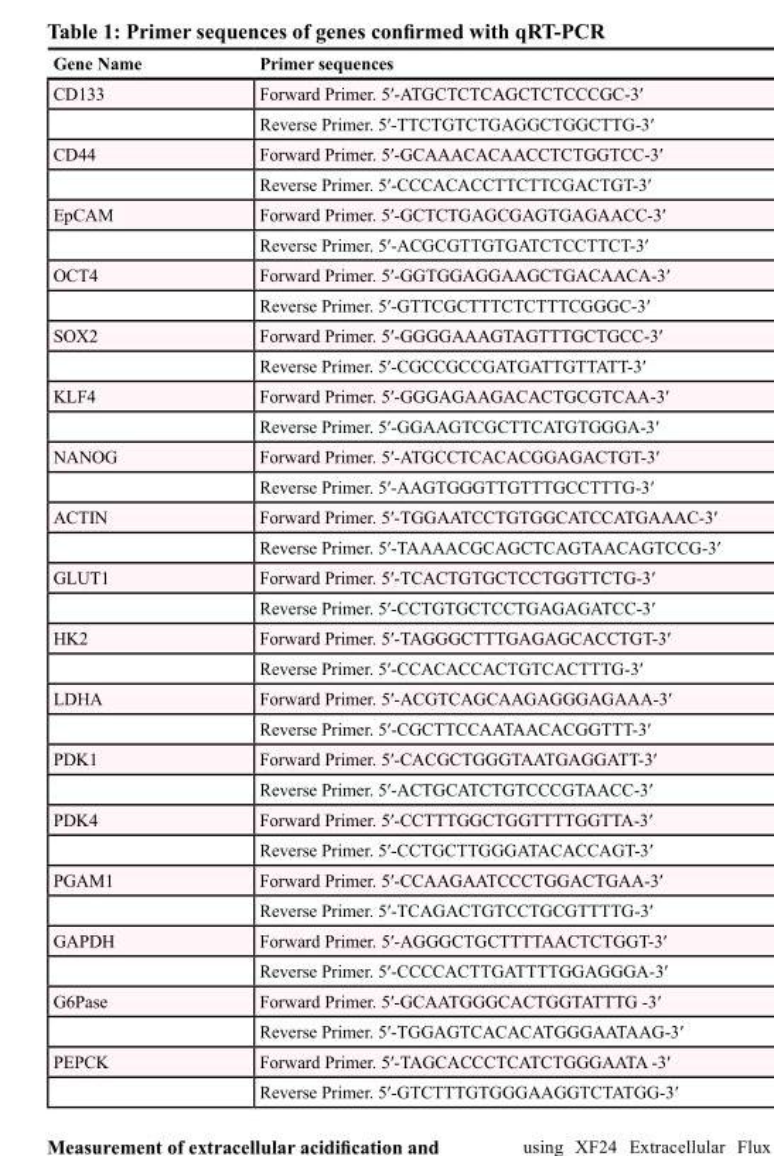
<table><thead><tr><td>Gene Name</td><td>Primer sequences</td></tr></thead><tbody><tr><td rowspan="2">CD133</td><td>Forward Primer. 5′-ATGCTCTCAGCTCTCCCGC-3′</td></tr><tr><td>Reverse Primer. 5′-TTCTGTCTGAGGCTGGCTTG-3′</td></tr><tr><td rowspan="2">CD44</td><td>Forward Primer. 5′-GCAAACACAACCTCTGGTCC-3′</td></tr><tr><td>Reverse Primer. 5′-CCCACACCTTCTTCGACTGT-3′</td></tr><tr><td rowspan="2">EpCAM</td><td>Forward Primer. 5′-GCTCTGAGCGAGTGAGAACC-3′</td></tr><tr><td>Reverse Primer. 5′-ACGCGTTGTGATCTCCTTCT-3′</td></tr><tr><td rowspan="2">OCT4</td><td>Forward Primer. 5′-GGTGGAGGAAGCTGACAACA-3′</td></tr><tr><td>Reverse Primer. 5′-GTTCGCTTTCTCTTTCGGGC-3′</td></tr><tr><td rowspan="2">SOX2</td><td>Forward Primer. 5′-GGGGAAAGTAGTTTGCTGCC-3′</td></tr><tr><td>Reverse Primer. 5′-CGCCGCCGATGATTGTTATT-3′</td></tr><tr><td rowspan="2">KLF4</td><td>Forward Primer. 5′-GGGAGAAGACACTGCGTCAA-3′</td></tr><tr><td>Reverse Primer. 5′-GGAAGTCGCTTCATGTGGGA-3′</td></tr><tr><td rowspan="2">NANOG</td><td>Forward Primer. 5′-ATGCCTCACACGGAGACTGT-3′</td></tr><tr><td>Reverse Primer. 5′-AAGTGGGTTGTTTGCCTTTG-3′</td></tr><tr><td rowspan="2">ACTIN</td><td>Forward Primer. 5′-TGGAATCCTGTGGCATCCATGAAAC-3′</td></tr><tr><td>Reverse Primer. 5′-TAAAACGCAGCTCAGTAACAGTCCG-3′</td></tr><tr><td rowspan="2">GLUT1</td><td>Forward Primer. 5′-TCACTGTGCTCCTGGTTCTG-3′</td></tr><tr><td>Reverse Primer. 5′-CCTGTGCTCCTGAGAGATCC-3′</td></tr><tr><td rowspan="2">HK2</td><td>Forward Primer. 5′-TAGGGCTTTGAGAGCACCTGT-3′</td></tr><tr><td>Reverse Primer. 5′-CCACACCACTGTCACTTTG-3′</td></tr><tr><td rowspan="2">LDHA</td><td>Forward Primer. 5′-ACGTCAGCAAGAGGGAGAAA-3′</td></tr><tr><td>Reverse Primer. 5′-CGCTTCCAATAACACGGTTT-3′</td></tr><tr><td rowspan="2">PDK1</td><td>Forward Primer. 5′-CACGCTGGGTAATGAGGATT-3′</td></tr><tr><td>Reverse Primer. 5′-ACTGCATCTGTCCCGTAACC-3′</td></tr><tr><td rowspan="2">PDK4</td><td>Forward Primer. 5′-CCTTTGGCTGGTTTTGGTTA-3′</td></tr><tr><td>Reverse Primer. 5′-CCTGCTTGGGATACACCAGT-3′</td></tr><tr><td rowspan="2">PGAM1</td><td>Forward Primer. 5′-CCAAGAATCCCTGGACTGAA-3′</td></tr><tr><td>Reverse Primer. 5′-TCAGACTGTCCTGCGTTTTG-3′</td></tr><tr><td rowspan="2">GAPDH</td><td>Forward Primer. 5′-AGGGCTGCTTTTAACTCTGGT-3′</td></tr><tr><td>Reverse Primer. 5′-CCCCACTTGATTTTGGAGGGA-3′</td></tr><tr><td rowspan="2">G6Pase</td><td>Forward Primer. 5′-GCAATGGGCACTGGTATTTG -3′</td></tr><tr><td>Reverse Primer. 5′-TGGAGTCACACATGGGAATAAG-3′</td></tr><tr><td rowspan="2">PEPCK</td><td>Forward Primer. 5′-TAGCACCCTCATCTGGGAATA -3′</td></tr><tr><td>Reverse Primer. 5′-GTCTTTGTGGGAAGGTCTATGG-3′</td></tr></tbody></table>